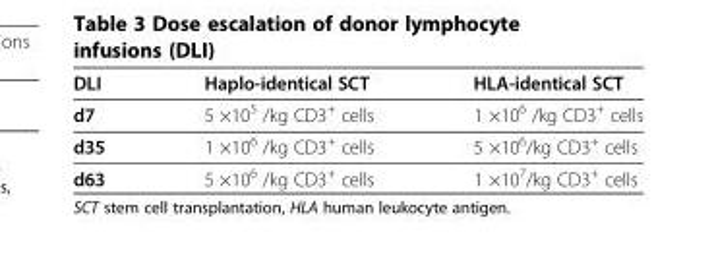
<table><thead><tr><td>DLI</td><td>Haplo-identical SCT</td><td>HLA-identical SCT</td></tr></thead><tbody><tr><td>d7</td><td>5 ×10<sup>5</sup> /kg CD3<sup>+</sup> cells</td><td>1 ×10<sup>6</sup> /kg CD3<sup>+</sup> cells</td></tr><tr><td>d35</td><td>1 ×10<sup>6</sup> /kg CD3<sup>+</sup> cells</td><td>5 ×10<sup>6</sup>/kg CD3<sup>+</sup> cells</td></tr><tr><td>d63</td><td>5 ×10<sup>6</sup> /kg CD3<sup>+</sup> cells</td><td>1 ×10<sup>7</sup>/kg CD3<sup>+</sup> cells</td></tr></tbody></table>